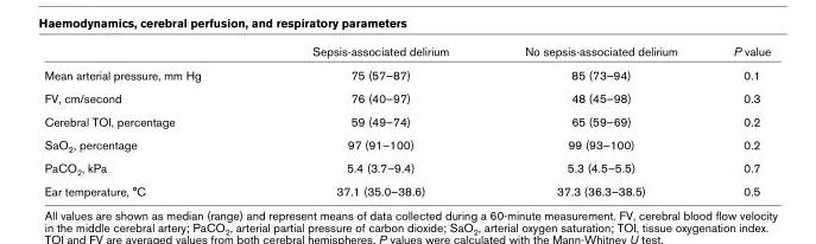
<table><thead><tr><td></td><td>Sepsis-associated delirium</td><td>No sepsis-associated delirium</td><td>P value</td></tr></thead><tbody><tr><td>Mean arterial pressure, mm Hg</td><td>75 (57–87)</td><td>85 (73–94)</td><td>0.1</td></tr><tr><td>FV, cm/second</td><td>76 (40–97)</td><td>48 (45–98)</td><td>0.3</td></tr><tr><td>Cerebral TOI, percentage</td><td>59 (49–74)</td><td>65 (59–69)</td><td>0.2</td></tr><tr><td>SaO<sub>2</sub>, percentage</td><td>97 (91–100)</td><td>99 (93–100)</td><td>0.2</td></tr><tr><td>PaCO<sub>2</sub>, kPa</td><td>5.4 (3.7–9.4)</td><td>5.3 (4.5–5.5)</td><td>0.7</td></tr><tr><td>Ear temperature, °C</td><td>37.1 (35.0–38.6)</td><td>37.3 (36.3–38.5)</td><td>0.5</td></tr></tbody></table>